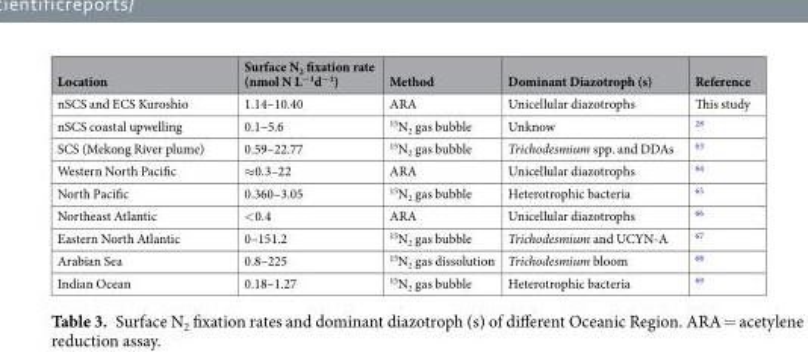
<table><thead><tr><td>Location</td><td>Surface N<sub>2</sub> fixation rate (nmol N L<sup>−1</sup>d<sup>−1</sup>)</td><td>Method</td><td>Dominant Diazotroph (s)</td><td>Reference</td></tr></thead><tbody><tr><td>nSCS and ECS Kuroshio</td><td>1.14–10.40</td><td>ARA</td><td>Unicellular diazotrophs</td><td>This study</td></tr><tr><td>nSCS coastal upwelling</td><td>0.1–5.6</td><td><sup>15</sup>N<sub>2</sub> gas bubble</td><td>Unknow</td><td><sup>28</sup></td></tr><tr><td>SCS (Mekong River plume)</td><td>0.59–22.77</td><td><sup>15</sup>N<sub>2</sub> gas bubble</td><td>Trichodesmium spp. and DDAs</td><td><sup>63</sup></td></tr><tr><td>Western North Pacific</td><td>≈0.3–22</td><td>ARA</td><td>Unicellular diazotrophs</td><td><sup>64</sup></td></tr><tr><td>North Pacific</td><td>0.360–3.05</td><td><sup>15</sup>N<sub>2</sub> gas bubble</td><td>Heterotrophic bacteria</td><td><sup>65</sup></td></tr><tr><td>Northeast Atlantic</td><td>&lt;0.4</td><td>ARA</td><td>Unicellular diazotrophs</td><td><sup>66</sup></td></tr><tr><td>Eastern North Atlantic</td><td>0–151.2</td><td><sup>15</sup>N<sub>2</sub> gas bubble</td><td>Trichodesmium and UCYN-A</td><td><sup>67</sup></td></tr><tr><td>Arabian Sea</td><td>0.8–225</td><td><sup>15</sup>N<sub>2</sub> gas dissolution</td><td>Trichodesmium bloom</td><td><sup>68</sup></td></tr><tr><td>Indian Ocean</td><td>0.18–1.27</td><td><sup>15</sup>N<sub>2</sub> gas bubble</td><td>Heterotrophic bacteria</td><td><sup>69</sup></td></tr></tbody></table>